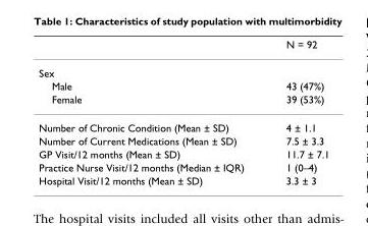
<table><thead><tr><td></td><td>N = 92</td></tr></thead><tbody><tr><td colspan="2">Sex</td></tr><tr><td>Male</td><td>43 (47%)</td></tr><tr><td>Female</td><td>39 (53%)</td></tr><tr><td>Number of Chronic Condition (Mean ± SD)</td><td>4 ± 1.1</td></tr><tr><td>Number of Current Medications (Mean ± SD)</td><td>7.5 ± 3.3</td></tr><tr><td>GP Visit/12 months (Mean ± SD)</td><td>11.7 ± 7.1</td></tr><tr><td>Practice Nurse Visit/12 months (Median ± IQR)</td><td>1 (0–4)</td></tr><tr><td>Hospital Visit/12 months (Mean ± SD)</td><td>3.3 ± 3</td></tr></tbody></table>